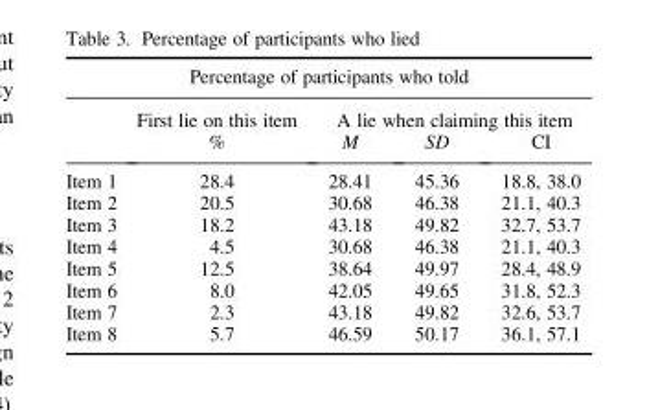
<table><thead><tr><td colspan="5">Percentage of participants who told</td></tr><tr><td rowspan="2"></td><td rowspan="2">First lie on this item %</td><td colspan="3">A lie when claiming this item</td></tr><tr><td>M</td><td>SD</td><td>CI</td></tr></thead><tbody><tr><td>Item 1</td><td>28.4</td><td>28.41</td><td>45.36</td><td>18.8, 38.0</td></tr><tr><td>Item 2</td><td>20.5</td><td>30.68</td><td>46.38</td><td>21.1, 40.3</td></tr><tr><td>Item 3</td><td>18.2</td><td>43.18</td><td>49.82</td><td>32.7, 53.7</td></tr><tr><td>Item 4</td><td>4.5</td><td>30.68</td><td>46.38</td><td>21.1, 40.3</td></tr><tr><td>Item 5</td><td>12.5</td><td>38.64</td><td>49.97</td><td>28.4, 48.9</td></tr><tr><td>Item 6</td><td>8.0</td><td>42.05</td><td>49.65</td><td>31.8, 52.3</td></tr><tr><td>Item 7</td><td>2.3</td><td>43.18</td><td>49.82</td><td>32.6, 53.7</td></tr><tr><td>Item 8</td><td>5.7</td><td>46.59</td><td>50.17</td><td>36.1, 57.1</td></tr></tbody></table>